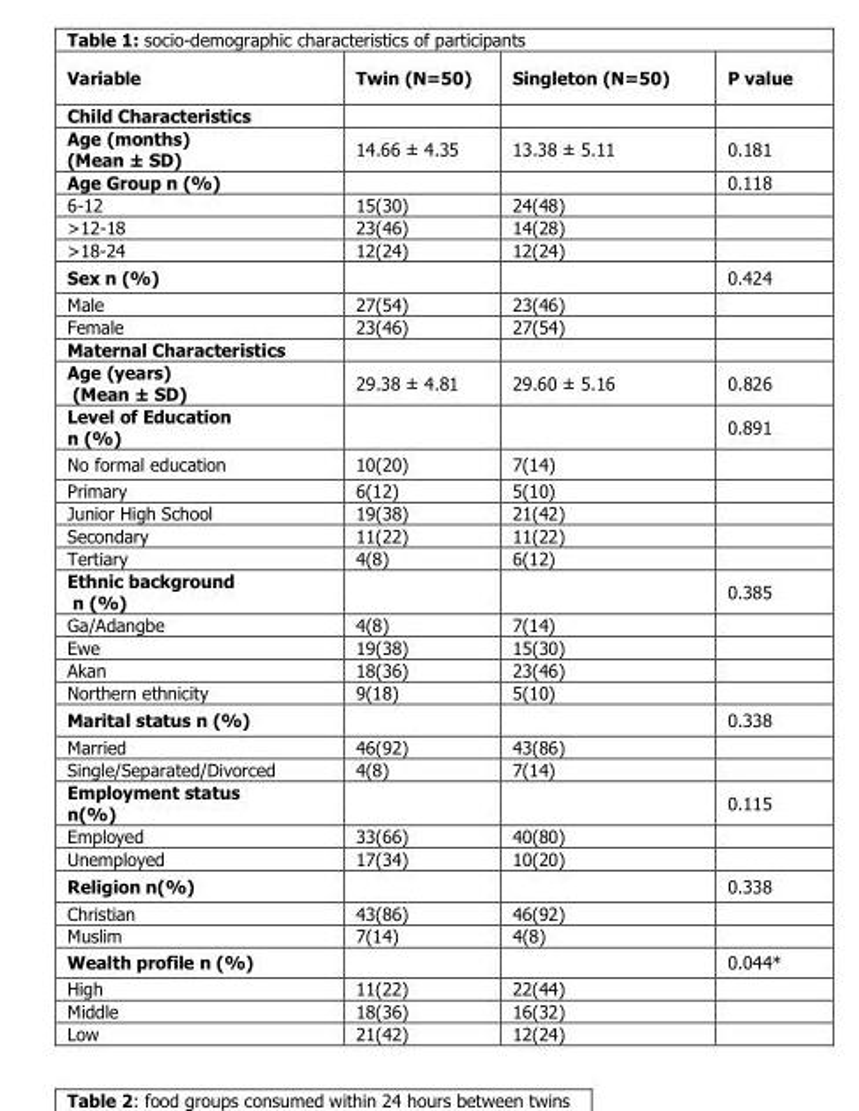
<table><thead><tr><td>Variable</td><td>Twin (N=50)</td><td>Singleton (N=50)</td><td>P value</td></tr></thead><tbody><tr><td colspan="4">Child Characteristics</td></tr><tr><td>Age (months) (Mean ± SD)</td><td>14.66 ± 4.35</td><td>13.38 ± 5.11</td><td>0.181</td></tr><tr><td>Age Group n (%)</td><td></td><td></td><td>0.118</td></tr><tr><td>6-12</td><td>15(30)</td><td>24(48)</td><td></td></tr><tr><td>&gt;12-18</td><td>23(46)</td><td>14(28)</td><td></td></tr><tr><td>&gt;18-24</td><td>12(24)</td><td>12(24)</td><td></td></tr><tr><td>Sex n (%)</td><td></td><td></td><td>0.424</td></tr><tr><td>Male</td><td>27(54)</td><td>23(46)</td><td></td></tr><tr><td>Female</td><td>23(46)</td><td>27(54)</td><td></td></tr><tr><td colspan="4">Maternal Characteristics</td></tr><tr><td>Age (years) (Mean ± SD)</td><td>29.38 ± 4.81</td><td>29.60 ± 5.16</td><td>0.826</td></tr><tr><td>Level of Education n (%)</td><td></td><td></td><td>0.891</td></tr><tr><td>No formal education</td><td>10(20)</td><td>7(14)</td><td></td></tr><tr><td>Primary</td><td>6(12)</td><td>5(10)</td><td></td></tr><tr><td>Junior High School</td><td>19(38)</td><td>21(42)</td><td></td></tr><tr><td>Secondary</td><td>11(22)</td><td>11(22)</td><td></td></tr><tr><td>Tertiary</td><td>4(8)</td><td>6(12)</td><td></td></tr><tr><td>Ethnic background n (%)</td><td></td><td></td><td>0.385</td></tr><tr><td>Ga/Adangbe</td><td>4(8)</td><td>7(14)</td><td></td></tr><tr><td>Ewe</td><td>19(38)</td><td>15(30)</td><td></td></tr><tr><td>Akan</td><td>18(36)</td><td>23(46)</td><td></td></tr><tr><td>Northern ethnicity</td><td>9(18)</td><td>5(10)</td><td></td></tr><tr><td>Marital status n (%)</td><td></td><td></td><td>0.338</td></tr><tr><td>Married</td><td>46(92)</td><td>43(86)</td><td></td></tr><tr><td>Single/Separated/Divorced</td><td>4(8)</td><td>7(14)</td><td></td></tr><tr><td>Employment status n(%)</td><td></td><td></td><td>0.115</td></tr><tr><td>Employed</td><td>33(66)</td><td>40(80)</td><td></td></tr><tr><td>Unemployed</td><td>17(34)</td><td>10(20)</td><td></td></tr><tr><td>Religion n(%)</td><td></td><td></td><td>0.338</td></tr><tr><td>Christian</td><td>43(86)</td><td>46(92)</td><td></td></tr><tr><td>Muslim</td><td>7(14)</td><td>4(8)</td><td></td></tr><tr><td>Wealth profile n (%)</td><td></td><td></td><td>0.044*</td></tr><tr><td>High</td><td>11(22)</td><td>22(44)</td><td></td></tr><tr><td>Middle</td><td>18(36)</td><td>16(32)</td><td></td></tr><tr><td>Low</td><td>21(42)</td><td>12(24)</td><td></td></tr></tbody></table>